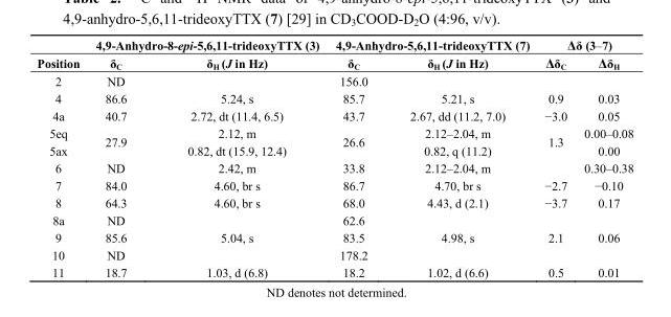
<table><thead><tr><td rowspan="2">Position</td><td colspan="2">4,9-Anhydro-8-epi-5,6,11-trideoxyTTX (3)</td><td colspan="2">4,9-Anhydro-5,6,11-trideoxyTTX (7)</td><td colspan="2">Δδ (3–7)</td></tr><tr><td>δ<sub>C</sub></td><td>δ<sub>H</sub> (J in Hz)</td><td>δ<sub>C</sub></td><td>δ<sub>H</sub> (J in Hz)</td><td>Δδ<sub>C</sub></td><td>Δδ<sub>H</sub></td></tr></thead><tbody><tr><td>2</td><td>ND</td><td></td><td>156.0</td><td></td><td></td><td></td></tr><tr><td>4</td><td>86.6</td><td>5.24, s</td><td>85.7</td><td>5.21, s</td><td>0.9</td><td>0.03</td></tr><tr><td>4a</td><td>40.7</td><td>2.72, dt (11.4, 6.5)</td><td>43.7</td><td>2.67, dd (11.2, 7.0)</td><td>−3.0</td><td>0.05</td></tr><tr><td>5eq</td><td rowspan="2">27.9</td><td>2.12, m</td><td rowspan="2">26.6</td><td>2.12–2.04, m</td><td rowspan="2">1.3</td><td>0.00–0.08</td></tr><tr><td>5ax</td><td>0.82, dt (15.9, 12.4)</td><td>0.82, q (11.2)</td><td>0.00</td></tr><tr><td>6</td><td>ND</td><td>2.42, m</td><td>33.8</td><td>2.12–2.04, m</td><td></td><td>0.30–0.38</td></tr><tr><td>7</td><td>84.0</td><td>4.60, br s</td><td>86.7</td><td>4.70, br s</td><td>−2.7</td><td>−0.10</td></tr><tr><td>8</td><td>64.3</td><td>4.60, br s</td><td>68.0</td><td>4.43, d (2.1)</td><td>−3.7</td><td>0.17</td></tr><tr><td>8a</td><td>ND</td><td></td><td>62.6</td><td></td><td></td><td></td></tr><tr><td>9</td><td>85.6</td><td>5.04, s</td><td>83.5</td><td>4.98, s</td><td>2.1</td><td>0.06</td></tr><tr><td>10</td><td>ND</td><td></td><td>178.2</td><td></td><td></td><td></td></tr><tr><td>11</td><td>18.7</td><td>1.03, d (6.8)</td><td>18.2</td><td>1.02, d (6.6)</td><td>0.5</td><td>0.01</td></tr></tbody></table>